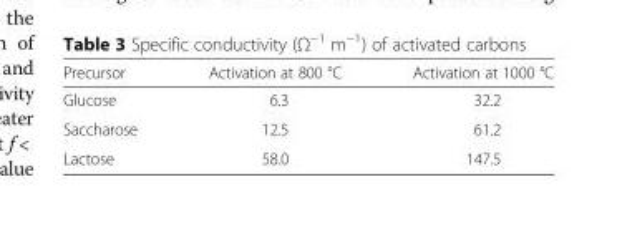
<table><thead><tr><td>Precursor</td><td>Activation at 800 °C</td><td>Activation at 1000 °C</td></tr></thead><tbody><tr><td>Glucose</td><td>6.3</td><td>32.2</td></tr><tr><td>Saccharose</td><td>12.5</td><td>61.2</td></tr><tr><td>Lactose</td><td>58.0</td><td>147.5</td></tr></tbody></table>